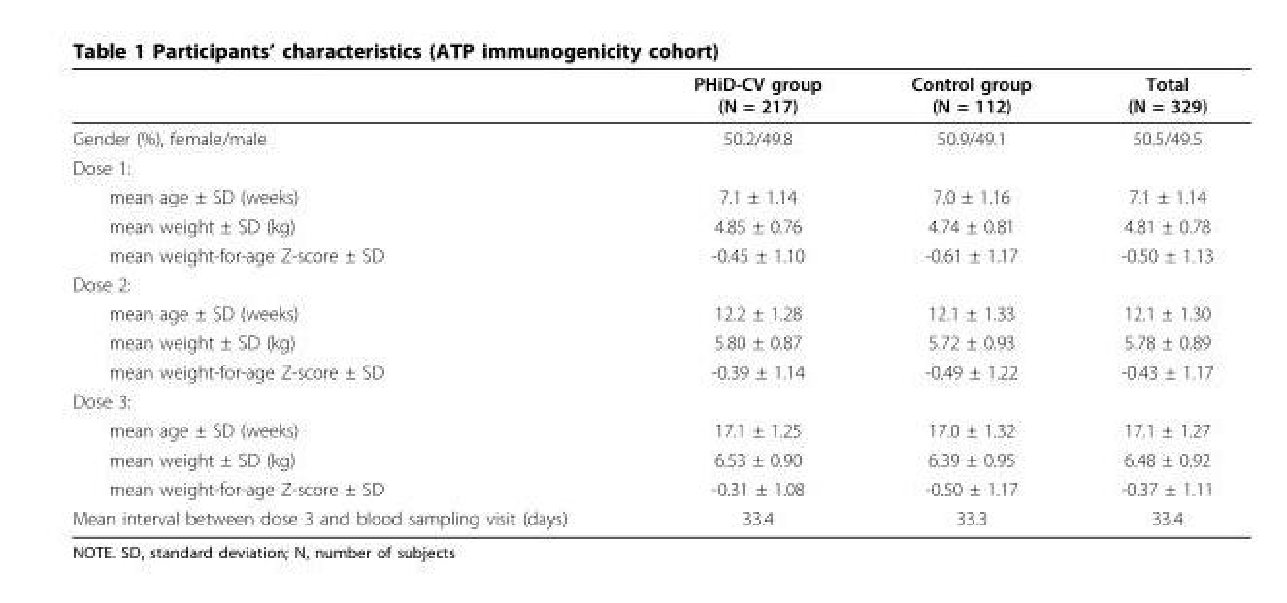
<table><thead><tr><td></td><td>PHiD-CV group (N = 217)</td><td>Control group (N = 112)</td><td>Total (N = 329)</td></tr></thead><tbody><tr><td>Gender (%), female/male</td><td>50.2/49.8</td><td>50.9/49.1</td><td>50.5/49.5</td></tr><tr><td colspan="4">Dose 1:</td></tr><tr><td>mean age ± SD (weeks)</td><td>7.1 ± 1.14</td><td>7.0 ± 1.16</td><td>7.1 ± 1.14</td></tr><tr><td>mean weight ± SD (kg)</td><td>4.85 ± 0.76</td><td>4.74 ± 0.81</td><td>4.81 ± 0.78</td></tr><tr><td>mean weight-for-age Z-score ± SD</td><td>-0.45 ± 1.10</td><td>-0.61 ± 1.17</td><td>-0.50 ± 1.13</td></tr><tr><td colspan="4">Dose 2:</td></tr><tr><td>mean age ± SD (weeks)</td><td>12.2 ± 1.28</td><td>12.1 ± 1.33</td><td>12.1 ± 1.30</td></tr><tr><td>mean weight ± SD (kg)</td><td>5.80 ± 0.87</td><td>5.72 ± 0.93</td><td>5.78 ± 0.89</td></tr><tr><td>mean weight-for-age Z-score ± SD</td><td>-0.39 ± 1.14</td><td>-0.49 ± 1.22</td><td>-0.43 ± 1.17</td></tr><tr><td colspan="4">Dose 3:</td></tr><tr><td>mean age ± SD (weeks)</td><td>17.1 ± 1.25</td><td>17.0 ± 1.32</td><td>17.1 ± 1.27</td></tr><tr><td>mean weight ± SD (kg)</td><td>6.53 ± 0.90</td><td>6.39 ± 0.95</td><td>6.48 ± 0.92</td></tr><tr><td>mean weight-for-age Z-score ± SD</td><td>-0.31 ± 1.08</td><td>-0.50 ± 1.17</td><td>-0.37 ± 1.11</td></tr><tr><td>Mean interval between dose 3 and blood sampling visit (days)</td><td>33.4</td><td>33.3</td><td>33.4</td></tr></tbody></table>